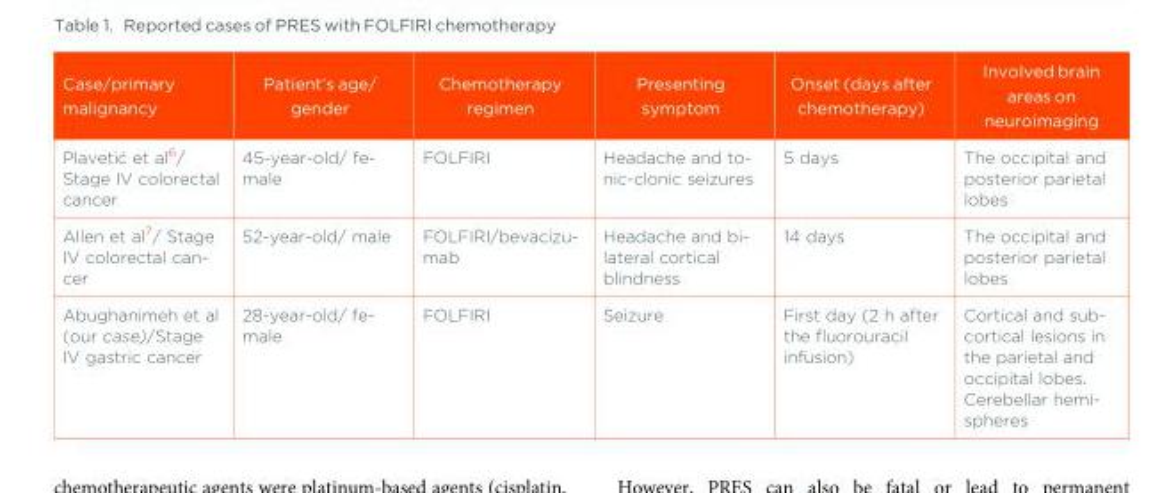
<table><thead><tr><td>Case/primary malignancy</td><td>Patient’s age/ gender</td><td>Chemotherapy regimen</td><td>Presenting symptom</td><td>Onset (days after chemotherapy)</td><td>Involved brain areas on neuroimaging</td></tr></thead><tbody><tr><td>Plavetić et al<sup>6</sup>/ Stage IV colorectal cancer</td><td>45-year-old/ fe- male</td><td>FOLFIRI</td><td>Headache and to- nic-clonic seizures</td><td>5 days</td><td>The occipital and posterior parietal lobes</td></tr><tr><td>Allen et al7/ Stage IV colorectal can- cer</td><td>52-year-old/ male</td><td>FOLFIRI/bevacizu- mab</td><td>Headache and bi- lateral cortical blindness</td><td>14 days</td><td>The occipital and posterior parietal lobes</td></tr><tr><td>Abughanimeh et al (our case)/Stage IV gastric cancer</td><td>28-year-old/ fe- male</td><td>FOLFIRI</td><td>Seizure</td><td>First day (2 h after the fluorouracil infusion)</td><td>Cortical and sub- cortical lesions in the parietal and occipital lobes. Cerebellar hemi- spheres</td></tr></tbody></table>